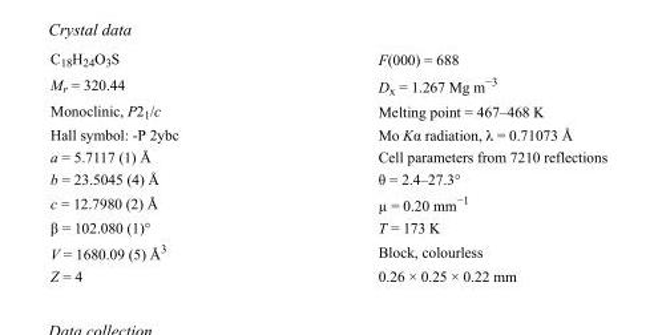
<table><tbody><tr><td>C<sub>18</sub>H<sub>24</sub>O<sub>3</sub>S</td><td>F(000) = 688</td></tr><tr><td>M<sub>r</sub> = 320.44</td><td>D<sub>x</sub> = 1.267 Mg m<sup>−3</sup></td></tr><tr><td>Monoclinic, P2<sub>1</sub>/c</td><td>Melting point = 467–468 K</td></tr><tr><td>Hall symbol: -P 2ybc</td><td>Mo Kα radiation, λ = 0.71073 Å</td></tr><tr><td>a = 5.7117 (1) Å</td><td>Cell parameters from 7210 reflections</td></tr><tr><td>b = 23.5045 (4) Å</td><td>θ = 2.4–27.3°</td></tr><tr><td>c = 12.7980 (2) Å</td><td>µ = 0.20 mm<sup>−1</sup></td></tr><tr><td>β = 102.080 (1)°</td><td>T = 173 K</td></tr><tr><td>V = 1680.09 (5) Å<sup>3</sup></td><td>Block, colourless</td></tr><tr><td>Z = 4</td><td>0.26 × 0.25 × 0.22 mm</td></tr></tbody></table>